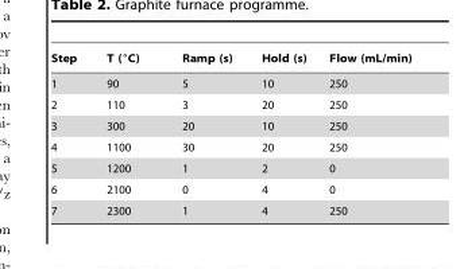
<table><thead><tr><td>Step</td><td>T (°C)</td><td>Ramp (s)</td><td>Hold (s)</td><td>Flow (mL/min)</td></tr></thead><tbody><tr><td>1</td><td>90</td><td>5</td><td>10</td><td>250</td></tr><tr><td>2</td><td>110</td><td>3</td><td>20</td><td>250</td></tr><tr><td>3</td><td>300</td><td>20</td><td>10</td><td>250</td></tr><tr><td>4</td><td>1100</td><td>30</td><td>20</td><td>250</td></tr><tr><td>5</td><td>1200</td><td>1</td><td>2</td><td>0</td></tr><tr><td>6</td><td>2100</td><td>0</td><td>4</td><td>0</td></tr><tr><td>7</td><td>2300</td><td>1</td><td>4</td><td>250</td></tr></tbody></table>